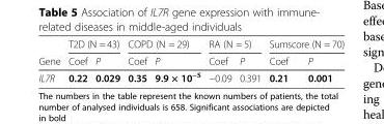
<table><thead><tr><td rowspan="2">Gene</td><td colspan="2">T2D (N = 43)</td><td colspan="2">COPD (N = 29)</td><td colspan="2">RA (N = 5)</td><td colspan="2">Sumscore (N = 70)</td></tr><tr><td>Coef</td><td>P</td><td>Coef</td><td>P</td><td>Coef</td><td>P</td><td>Coef</td><td>P</td></tr></thead><tbody><tr><td>IL7R</td><td>0.22</td><td>0.029</td><td>0.35</td><td>9.9 × 10<sup>−5</sup></td><td>−0.09</td><td>0.391</td><td>0.21</td><td>0.001</td></tr></tbody></table>